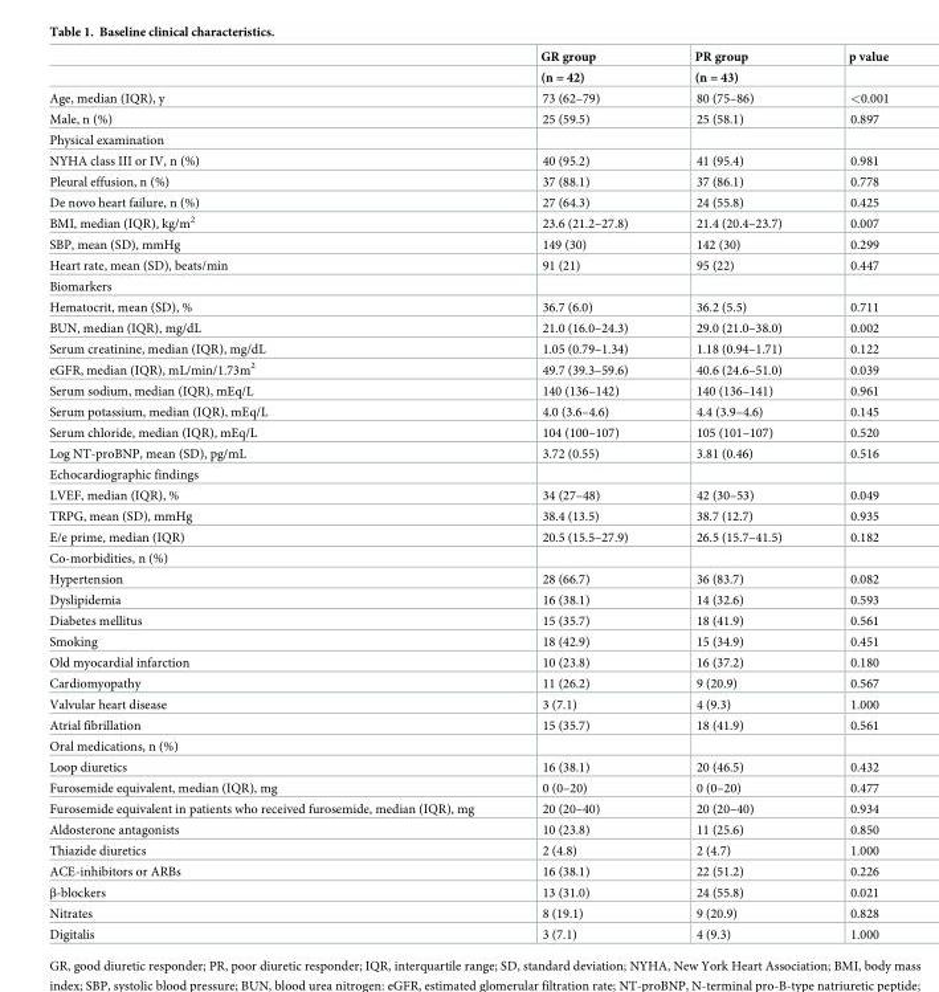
<table><thead><tr><td rowspan="2"></td><td rowspan="2">GR group (n = 42)</td><td rowspan="2">PR group (n = 43)</td><td rowspan="2">p value</td></tr><tr></tr></thead><tbody><tr><td>Age, median (IQR), y</td><td>73 (62–79)</td><td>80 (75–86)</td><td>&lt;0.001</td></tr><tr><td>Male, n (%)</td><td>25 (59.5)</td><td>25 (58.1)</td><td>0.897</td></tr><tr><td colspan="4">Physical examination</td></tr><tr><td>NYHA class III or IV, n (%)</td><td>40 (95.2)</td><td>41 (95.4)</td><td>0.981</td></tr><tr><td>Pleural effusion, n (%)</td><td>37 (88.1)</td><td>37 (86.1)</td><td>0.778</td></tr><tr><td>De novo heart failure, n (%)</td><td>27 (64.3)</td><td>24 (55.8)</td><td>0.425</td></tr><tr><td>BMI, median (IQR), kg/m<sup>2</sup></td><td>23.6 (21.2–27.8)</td><td>21.4 (20.4–23.7)</td><td>0.007</td></tr><tr><td>SBP, mean (SD), mmHg</td><td>149 (30)</td><td>142 (30)</td><td>0.299</td></tr><tr><td>Heart rate, mean (SD), beats/min</td><td>91 (21)</td><td>95 (22)</td><td>0.447</td></tr><tr><td colspan="4">Biomarkers</td></tr><tr><td>Hematocrit, mean (SD), %</td><td>36.7 (6.0)</td><td>36.2 (5.5)</td><td>0.711</td></tr><tr><td>BUN, median (IQR), mg/dL</td><td>21.0 (16.0–24.3)</td><td>29.0 (21.0–38.0)</td><td>0.002</td></tr><tr><td>Serum creatinine, median (IQR), mg/dL</td><td>1.05 (0.79–1.34)</td><td>1.18 (0.94–1.71)</td><td>0.122</td></tr><tr><td>eGFR, median (IQR), mL/min/1.73m<sup>2</sup></td><td>49.7 (39.3–59.6)</td><td>40.6 (24.6–51.0)</td><td>0.039</td></tr><tr><td>Serum sodium, median (IQR), mEq/L</td><td>140 (136–142)</td><td>140 (136–141)</td><td>0.961</td></tr><tr><td>Serum potassium, median (IQR), mEq/L</td><td>4.0 (3.6–4.6)</td><td>4.4 (3.9–4.6)</td><td>0.145</td></tr><tr><td>Serum chloride, median (IQR), mEq/L</td><td>104 (100–107)</td><td>105 (101–107)</td><td>0.520</td></tr><tr><td>Log NT-proBNP, mean (SD), pg/mL</td><td>3.72 (0.55)</td><td>3.81 (0.46)</td><td>0.516</td></tr><tr><td colspan="4">Echocardiographic findings</td></tr><tr><td>LVEF, median (IQR), %</td><td>34 (27–48)</td><td>42 (30–53)</td><td>0.049</td></tr><tr><td>TRPG, mean (SD), mmHg</td><td>38.4 (13.5)</td><td>38.7 (12.7)</td><td>0.935</td></tr><tr><td>E/e prime, median (IQR)</td><td>20.5 (15.5–27.9)</td><td>26.5 (15.7–41.5)</td><td>0.182</td></tr><tr><td colspan="4">Co-morbidities, n (%)</td></tr><tr><td>Hypertension</td><td>28 (66.7)</td><td>36 (83.7)</td><td>0.082</td></tr><tr><td>Dyslipidemia</td><td>16 (38.1)</td><td>14 (32.6)</td><td>0.593</td></tr><tr><td>Diabetes mellitus</td><td>15 (35.7)</td><td>18 (41.9)</td><td>0.561</td></tr><tr><td>Smoking</td><td>18 (42.9)</td><td>15 (34.9)</td><td>0.451</td></tr><tr><td>Old myocardial infarction</td><td>10 (23.8)</td><td>16 (37.2)</td><td>0.180</td></tr><tr><td>Cardiomyopathy</td><td>11 (26.2)</td><td>9 (20.9)</td><td>0.567</td></tr><tr><td>Valvular heart disease</td><td>3 (7.1)</td><td>4 (9.3)</td><td>1.000</td></tr><tr><td>Atrial fibrillation</td><td>15 (35.7)</td><td>18 (41.9)</td><td>0.561</td></tr><tr><td colspan="4">Oral medications, n (%)</td></tr><tr><td>Loop diuretics</td><td>16 (38.1)</td><td>20 (46.5)</td><td>0.432</td></tr><tr><td>Furosemide equivalent, median (IQR), mg</td><td>0 (0–20)</td><td>0 (0–20)</td><td>0.477</td></tr><tr><td>Furosemide equivalent in patients who received furosemide, median (IQR), mg</td><td>20 (20–40)</td><td>20 (20–40)</td><td>0.934</td></tr><tr><td>Aldosterone antagonists</td><td>10 (23.8)</td><td>11 (25.6)</td><td>0.850</td></tr><tr><td>Thiazide diuretics</td><td>2 (4.8)</td><td>2 (4.7)</td><td>1.000</td></tr><tr><td>ACE-inhibitors or ARBs</td><td>16 (38.1)</td><td>22 (51.2)</td><td>0.226</td></tr><tr><td>β-blockers</td><td>13 (31.0)</td><td>24 (55.8)</td><td>0.021</td></tr><tr><td>Nitrates</td><td>8 (19.1)</td><td>9 (20.9)</td><td>0.828</td></tr><tr><td>Digitalis</td><td>3 (7.1)</td><td>4 (9.3)</td><td>1.000</td></tr></tbody></table>